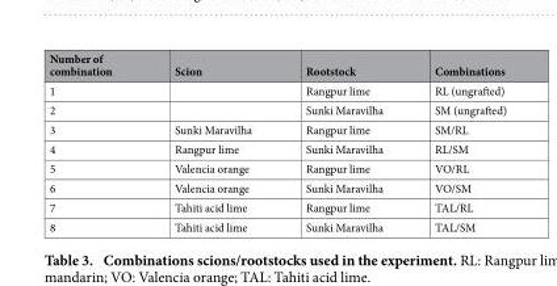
<table><thead><tr><td>Number of combination</td><td>Scion</td><td>Rootstock</td><td>Combinations</td></tr></thead><tbody><tr><td>1</td><td></td><td>Rangpur lime</td><td>RL (ungrafted)</td></tr><tr><td>2</td><td></td><td>Sunki Maravilha</td><td>SM (ungrafted)</td></tr><tr><td>3</td><td>Sunki Maravilha</td><td>Rangpur lime</td><td>SM/RL</td></tr><tr><td>4</td><td>Rangpur lime</td><td>Sunki Maravilha</td><td>RL/SM</td></tr><tr><td>5</td><td>Valencia orange</td><td>Rangpur lime</td><td>VO/RL</td></tr><tr><td>6</td><td>Valencia orange</td><td>Sunki Maravilha</td><td>VO/SM</td></tr><tr><td>7</td><td>Tahiti acid lime</td><td>Rangpur lime</td><td>TAL/RL</td></tr><tr><td>8</td><td>Tahiti acid lime</td><td>Sunki Maravilha</td><td>TAL/SM</td></tr></tbody></table>